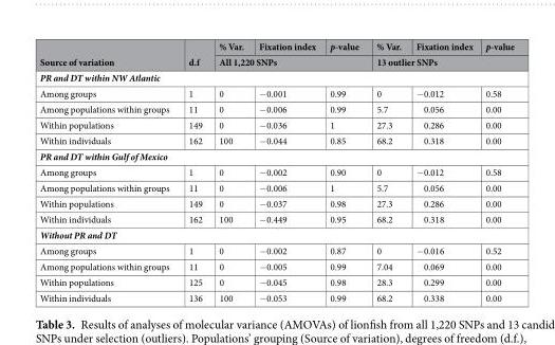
<table><thead><tr><td rowspan="2">Source of variation</td><td rowspan="2">d.f</td><td>% Var.</td><td>Fixation index</td><td>p-value</td><td>% Var.</td><td>Fixation index</td><td>p-value</td></tr><tr><td colspan="3">All 1,220 SNPs</td><td colspan="3">13 outlier SNPs</td></tr></thead><tbody><tr><td colspan="8">PR and DT within NW Atlantic</td></tr><tr><td>Among groups</td><td>1</td><td>0</td><td>−0.001</td><td>0.99</td><td>0</td><td>−0.012</td><td>0.58</td></tr><tr><td>Among populations within groups</td><td>11</td><td>0</td><td>−0.006</td><td>0.99</td><td>5.7</td><td>0.056</td><td>0.00</td></tr><tr><td>Within populations</td><td>149</td><td>0</td><td>−0.036</td><td>1</td><td>27.3</td><td>0.286</td><td>0.00</td></tr><tr><td>Within individuals</td><td>162</td><td>100</td><td>−0.044</td><td>0.85</td><td>68.2</td><td>0.318</td><td>0.00</td></tr><tr><td colspan="8">PR and DT within Gulf of Mexico</td></tr><tr><td>Among groups</td><td>1</td><td>0</td><td>−0.002</td><td>0.90</td><td>0</td><td>−0.012</td><td>0.58</td></tr><tr><td>Among populations within groups</td><td>11</td><td>0</td><td>−0.006</td><td>1</td><td>5.7</td><td>0.056</td><td>0.00</td></tr><tr><td>Within populations</td><td>149</td><td>0</td><td>−0.037</td><td>0.98</td><td>27.3</td><td>0.286</td><td>0.00</td></tr><tr><td>Within individuals</td><td>162</td><td>100</td><td>−0.449</td><td>0.95</td><td>68.2</td><td>0.318</td><td>0.00</td></tr><tr><td colspan="8">Without PR and DT</td></tr><tr><td>Among groups</td><td>1</td><td>0</td><td>−0.002</td><td>0.87</td><td>0</td><td>−0.016</td><td>0.52</td></tr><tr><td>Among populations within groups</td><td>11</td><td>0</td><td>−0.005</td><td>0.99</td><td>7.04</td><td>0.069</td><td>0.00</td></tr><tr><td>Within populations</td><td>125</td><td>0</td><td>−0.045</td><td>0.98</td><td>28.3</td><td>0.299</td><td>0.00</td></tr><tr><td>Within individuals</td><td>136</td><td>100</td><td>−0.053</td><td>0.99</td><td>68.2</td><td>0.338</td><td>0.00</td></tr></tbody></table>